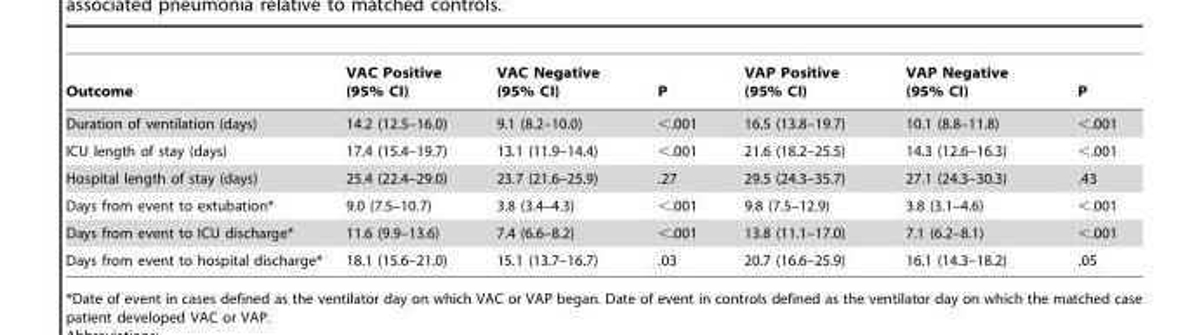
<table><thead><tr><td>Outcome</td><td>VAC Positive (95% CI)</td><td>VAC Negative (95% CI)</td><td>P</td><td>VAP Positive (95% CI)</td><td>VAP Negative (95% CI)</td><td>P</td></tr></thead><tbody><tr><td>Duration of ventilation (days)</td><td>14.2 (12.5–16.0)</td><td>9.1 (8.2–10.0)</td><td>&lt;.001</td><td>16.5 (13.8–19.7)</td><td>10.1 (8.8–11.8)</td><td>&lt;.001</td></tr><tr><td>ICU length of stay (days)</td><td>17.4 (15.4–19.7)</td><td>13.1 (11.9–14.4)</td><td>&lt;.001</td><td>21.6 (18.2–25.5)</td><td>14.3 (12.6–16.3)</td><td>&lt;.001</td></tr><tr><td>Hospital length of stay (days)</td><td>25.4 (22.4–29.0)</td><td>23.7 (21.6–25.9)</td><td>.27</td><td>29.5 (24.3–35.7)</td><td>27.1 (24.3–30.3)</td><td>.43</td></tr><tr><td>Days from event to extubation*</td><td>9.0 (7.5–10.7)</td><td>3.8 (3.4–4.3)</td><td>&lt;.001</td><td>9.8 (7.5–12.9)</td><td>3.8 (3.1–4.6)</td><td>&lt;.001</td></tr><tr><td>Days from event to ICU discharge*</td><td>11.6 (9.9–13.6)</td><td>7.4 (6.6–8.2)</td><td>&lt;.001</td><td>13.8 (11.1–17.0)</td><td>7.1 (6.2–8.1)</td><td>&lt;.001</td></tr><tr><td>Days from event to hospital discharge*</td><td>18.1 (15.6–21.0)</td><td>15.1 (13.7–16.7)</td><td>.03</td><td>20.7 (16.6–25.9)</td><td>16.1 (14.3–18.2)</td><td>.05</td></tr></tbody></table>